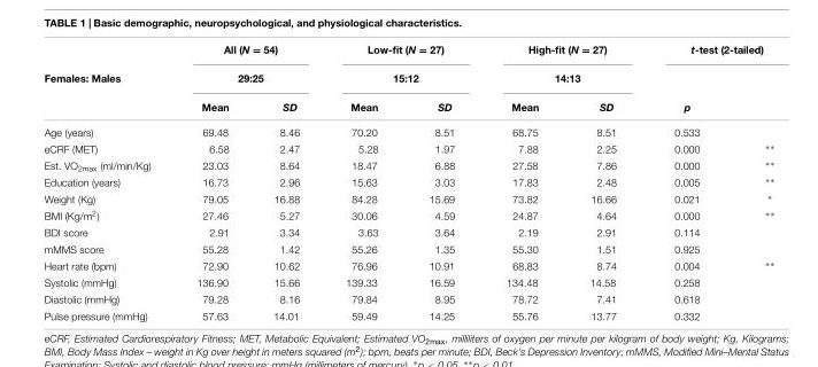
<table><thead><tr><td rowspan="3">Females: Males</td><td rowspan="2" colspan="2">All (N = 54) 29:25</td><td rowspan="2" colspan="2">Low-fit (N = 27) 15:12</td><td rowspan="2" colspan="2">High-fit (N = 27) 14:13</td><td colspan="2">t-test (2-tailed)</td></tr><tr><td rowspan="2">p</td><td rowspan="2"></td></tr><tr><td>Mean</td><td>SD</td><td>Mean</td><td>SD</td><td>Mean</td><td>SD</td></tr></thead><tbody><tr><td>Age (years)</td><td>69.48</td><td>8.46</td><td>70.20</td><td>8.51</td><td>68.75</td><td>8.51</td><td>0.533</td><td></td></tr><tr><td>eCRF (MET)</td><td>6.58</td><td>2.47</td><td>5.28</td><td>1.97</td><td>7.88</td><td>2.25</td><td>0.000</td><td>∗∗</td></tr><tr><td>Est. VO<sub>2max</sub> (ml/min/Kg)</td><td>23.03</td><td>8.64</td><td>18.47</td><td>6.88</td><td>27.58</td><td>7.86</td><td>0.000</td><td>∗∗</td></tr><tr><td>Education (years)</td><td>16.73</td><td>2.96</td><td>15.63</td><td>3.03</td><td>17.83</td><td>2.48</td><td>0.005</td><td>∗∗</td></tr><tr><td>Weight (Kg)</td><td>79.05</td><td>16.88</td><td>84.28</td><td>15.69</td><td>73.82</td><td>16.66</td><td>0.021</td><td>∗</td></tr><tr><td>BMI (Kg/m<sup>2</sup>)</td><td>27.46</td><td>5.27</td><td>30.06</td><td>4.59</td><td>24.87</td><td>4.64</td><td>0.000</td><td>∗∗</td></tr><tr><td>BDI score</td><td>2.91</td><td>3.34</td><td>3.63</td><td>3.64</td><td>2.19</td><td>2.91</td><td>0.114</td><td></td></tr><tr><td>mMMS score</td><td>55.28</td><td>1.42</td><td>55.26</td><td>1.35</td><td>55.30</td><td>1.51</td><td>0.925</td><td></td></tr><tr><td>Heart rate (bpm)</td><td>72.90</td><td>10.62</td><td>76.96</td><td>10.91</td><td>68.83</td><td>8.74</td><td>0.004</td><td>∗∗</td></tr><tr><td>Systolic (mmHg)</td><td>136.90</td><td>15.66</td><td>139.33</td><td>16.59</td><td>134.48</td><td>14.58</td><td>0.258</td><td></td></tr><tr><td>Diastolic (mmHg)</td><td>79.28</td><td>8.16</td><td>79.84</td><td>8.95</td><td>78.72</td><td>7.41</td><td>0.618</td><td></td></tr><tr><td>Pulse pressure (mmHg)</td><td>57.63</td><td>14.01</td><td>59.49</td><td>14.25</td><td>55.76</td><td>13.77</td><td>0.332</td><td></td></tr></tbody></table>